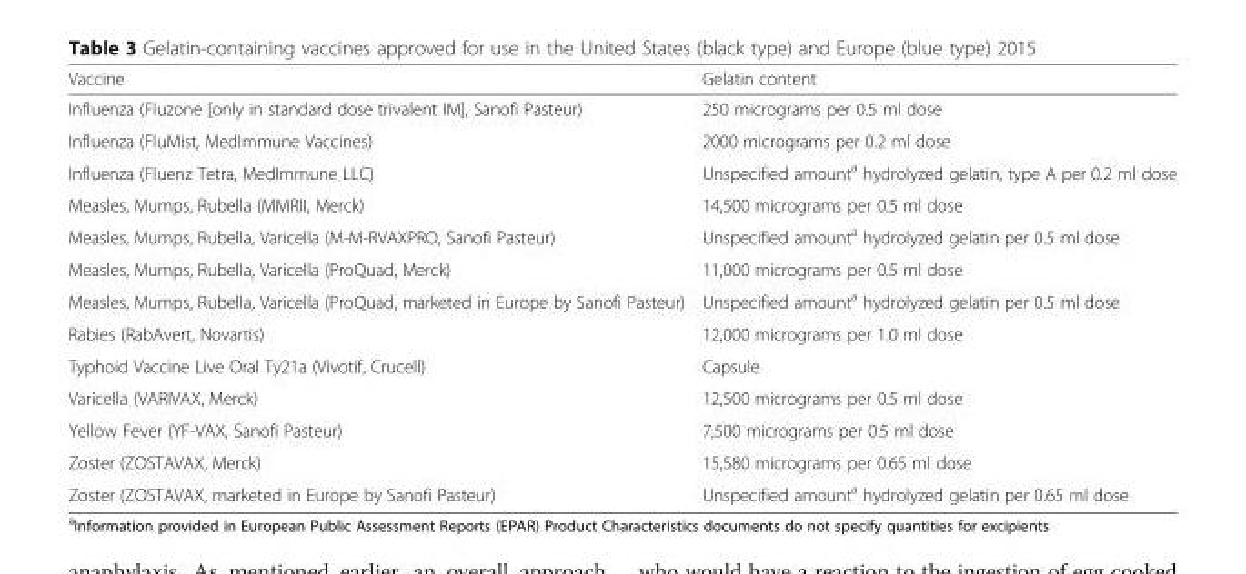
<table><thead><tr><td>Vaccine</td><td>Gelatin content</td></tr></thead><tbody><tr><td>Influenza (Fluzone [only in standard dose trivalent IM], Sanofi Pasteur)</td><td>250 micrograms per 0.5 ml dose</td></tr><tr><td>Influenza (FluMist, MedImmune Vaccines)</td><td>2000 micrograms per 0.2 ml dose</td></tr><tr><td>Influenza (Fluenz Tetra, MedImmune LLC)</td><td>Unspecified amount<sup>a</sup> hydrolyzed gelatin, type A per 0.2 ml dose</td></tr><tr><td>Measles, Mumps, Rubella (MMRII, Merck)</td><td>14,500 micrograms per 0.5 ml dose</td></tr><tr><td>Measles, Mumps, Rubella, Varicella (M-M-RVAXPRO, Sanofi Pasteur)</td><td>Unspecified amount<sup>a</sup> hydrolyzed gelatin per 0.5 ml dose</td></tr><tr><td>Measles, Mumps, Rubella, Varicella (ProQuad, Merck)</td><td>11,000 micrograms per 0.5 ml dose</td></tr><tr><td>Measles, Mumps, Rubella, Varicella (ProQuad, marketed in Europe by Sanofi Pasteur)</td><td>Unspecified amount<sup>a</sup> hydrolyzed gelatin per 0.5 ml dose</td></tr><tr><td>Rabies (RabAvert, Novartis)</td><td>12,000 micrograms per 1.0 ml dose</td></tr><tr><td>Typhoid Vaccine Live Oral Ty21a (Vivotif, Crucell)</td><td>Capsule</td></tr><tr><td>Varicella (VARIVAX, Merck)</td><td>12,500 micrograms per 0.5 ml dose</td></tr><tr><td>Yellow Fever (YF-VAX, Sanofi Pasteur)</td><td>7,500 micrograms per 0.5 ml dose</td></tr><tr><td>Zoster (ZOSTAVAX, Merck)</td><td>15,580 micrograms per 0.65 ml dose</td></tr><tr><td>Zoster (ZOSTAVAX, marketed in Europe by Sanofi Pasteur)</td><td>Unspecified amount<sup>a</sup> hydrolyzed gelatin per 0.65 ml dose</td></tr></tbody></table>